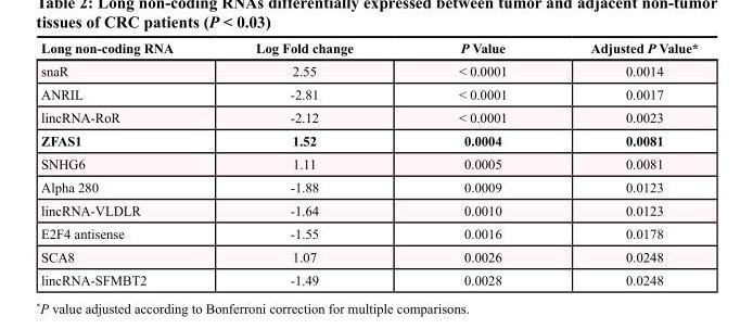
<table><thead><tr><td>Long non-coding RNA</td><td>Log Fold change</td><td>P Value</td><td>Adjusted P Value*</td></tr></thead><tbody><tr><td>snaR</td><td>2.55</td><td>&lt; 0.0001</td><td>0.0014</td></tr><tr><td>ANRIL</td><td>-2.81</td><td>&lt; 0.0001</td><td>0.0017</td></tr><tr><td>lincRNA-RoR</td><td>-2.12</td><td>&lt; 0.0001</td><td>0.0023</td></tr><tr><td>ZFAS1</td><td>1.52</td><td>0.0004</td><td>0.0081</td></tr><tr><td>SNHG6</td><td>1.11</td><td>0.0005</td><td>0.0081</td></tr><tr><td>Alpha 280</td><td>-1.88</td><td>0.0009</td><td>0.0123</td></tr><tr><td>lincRNA-VLDLR</td><td>-1.64</td><td>0.0010</td><td>0.0123</td></tr><tr><td>E2F4 antisense</td><td>-1.55</td><td>0.0016</td><td>0.0178</td></tr><tr><td>SCA8</td><td>1.07</td><td>0.0026</td><td>0.0248</td></tr><tr><td>lincRNA-SFMBT2</td><td>-1.49</td><td>0.0028</td><td>0.0248</td></tr></tbody></table>